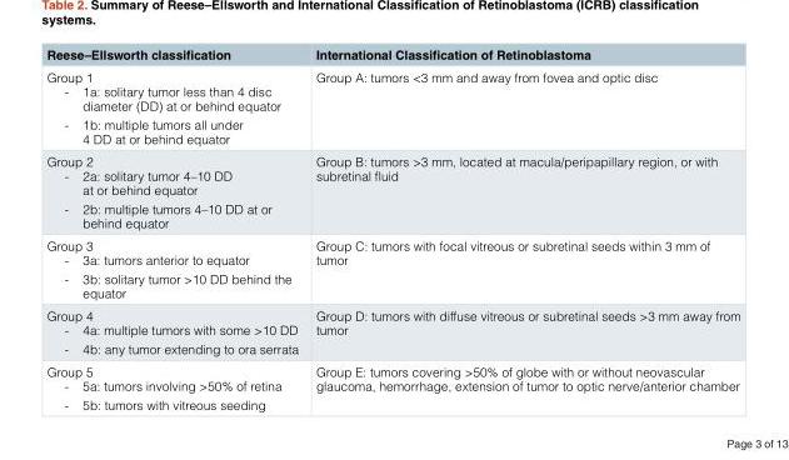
<table><thead><tr><td>Reese–Ellsworth classification</td><td>International Classification of Retinoblastoma</td></tr></thead><tbody><tr><td>Group 1 - 1a: solitary tumor less than 4 disc diameter (DD) at or behind equator - 1b: multiple tumors all under 4 DD at or behind equator</td><td>Group A: tumors &lt;3 mm and away from fovea and optic disc</td></tr><tr><td>Group 2 - 2a: solitary tumor 4–10 DD at or behind equator - 2b: multiple tumors 4–10 DD at or behind equator</td><td>Group B: tumors &gt;3 mm, located at macula/peripapillary region, or with subretinal fluid</td></tr><tr><td>Group 3 - 3a: tumors anterior to equator - 3b: solitary tumor &gt;10 DD behind the equator</td><td>Group C: tumors with focal vitreous or subretinal seeds within 3 mm of tumor</td></tr><tr><td>Group 4 - 4a: multiple tumors with some &gt;10 DD - 4b: any tumor extending to ora serrata</td><td>Group D: tumors with diffuse vitreous or subretinal seeds &gt;3 mm away from tumor</td></tr><tr><td>Group 5 - 5a: tumors involving &gt;50% of retina - 5b: tumors with vitreous seeding</td><td>Group E: tumors covering &gt;50% of globe with or without neovascular glaucoma, hemorrhage, extension of tumor to optic nerve/anterior chamber</td></tr></tbody></table>